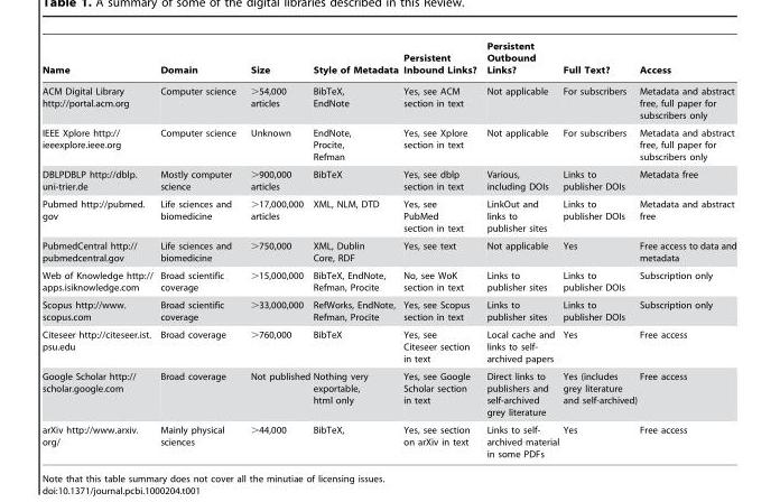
<table><thead><tr><td>Name</td><td>Domain</td><td>Size</td><td>Style of Metadata</td><td>Persistent Inbound Links?</td><td>Persistent Outbound Links?</td><td>Full Text?</td><td>Access</td></tr></thead><tbody><tr><td>ACM Digital Library http://portal.acm.org</td><td>Computer science</td><td>&gt;54,000 articles</td><td>BibTeX, EndNote</td><td>Yes, see ACM section in text</td><td>Not applicable</td><td>For subscribers</td><td>Metadata and abstract free, full paper for subscribers only</td></tr><tr><td>IEEE Xplore http:// ieeexplore.ieee.org</td><td>Computer science</td><td>Unknown</td><td>EndNote, Procite, Refman</td><td>Yes, see Xplore section in text</td><td>Not applicable</td><td>For subscribers</td><td>Metadata and abstract free, full paper for subscribers only</td></tr><tr><td>DBLPDBLP http://dblp. uni-trier.de</td><td>Mostly computer science</td><td>&gt;900,000 articles</td><td>BibTeX</td><td>Yes, see dblp section in text</td><td>Various, including DOIs</td><td>Links to publisher DOIs</td><td>Metadata free</td></tr><tr><td>Pubmed http://pubmed. gov</td><td>Life sciences and biomedicine</td><td>&gt;17,000,000 articles</td><td>XML, NLM, DTD</td><td>Yes, see PubMed section in text</td><td>LinkOut and links to publisher sites</td><td>Links to publisher DOIs</td><td>Metadata and abstract free</td></tr><tr><td>PubmedCentral http:// pubmedcentral.gov</td><td>Life sciences and biomedicine</td><td>&gt;750,000</td><td>XML, Dublin Core, RDF</td><td>Yes, see text</td><td>Not applicable</td><td>Yes</td><td>Free access to data and metadata</td></tr><tr><td>Web of Knowledge http:// apps.isiknowledge.com</td><td>Broad scientific coverage</td><td>&gt;15,000,000</td><td>BibTeX, EndNote, Refman, Procite</td><td>No, see WoK section in text</td><td>Links to publisher sites</td><td>Links to publisher DOIs</td><td>Subscription only</td></tr><tr><td>Scopus http://www. scopus.com</td><td>Broad scientific coverage</td><td>&gt;33,000,000</td><td>RefWorks, EndNote, Refman, Procite</td><td>Yes, see Scopus section in text</td><td>Links to publisher sites</td><td>Links to publisher DOIs</td><td>Subscription only</td></tr><tr><td>Citeseer http://citeseer.ist. psu.edu</td><td>Broad coverage</td><td>&gt;760,000</td><td>BibTeX</td><td>Yes, see Citeseer section in text</td><td>Local cache and links to self- archived papers</td><td>Yes</td><td>Free access</td></tr><tr><td>Google Scholar http:// scholar.google.com</td><td>Broad coverage</td><td>Not published</td><td>Nothing very exportable, html only</td><td>Yes, see Google Scholar section in text</td><td>Direct links to publishers and self-archived grey literature</td><td>Yes (includes grey literature and self-archived)</td><td>Free access</td></tr><tr><td>arXiv http://www.arxiv. org/</td><td>Mainly physical sciences</td><td>&gt;44,000</td><td>BibTeX,</td><td>Yes, see section on arXiv in text</td><td>Links to self- archived material in some PDFs</td><td>Yes</td><td>Free access</td></tr></tbody></table>